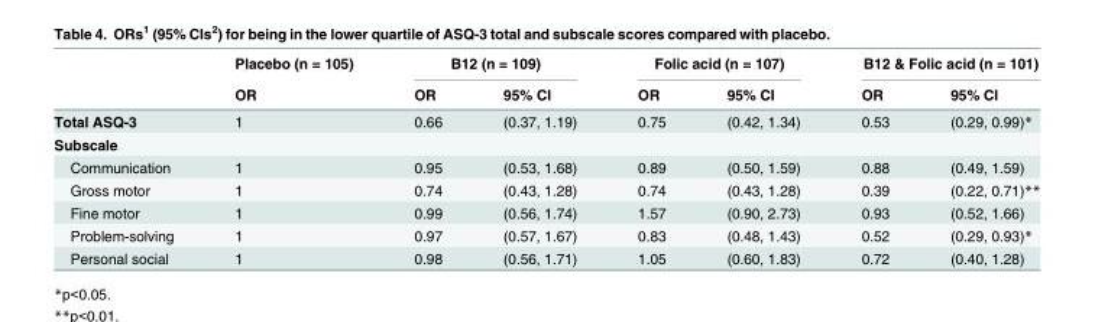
<table><thead><tr><td rowspan="2"></td><td rowspan="2">Placebo (n = 105) OR</td><td colspan="2">B12 (n = 109)</td><td colspan="2">Folic acid (n = 107)</td><td colspan="2">B12 &amp; Folic acid (n = 101)</td></tr><tr><td>OR</td><td>95% CI</td><td>OR</td><td>95% CI</td><td>OR</td><td>95% CI</td></tr></thead><tbody><tr><td>Total ASQ-3</td><td>1</td><td>0.66</td><td>(0.37, 1.19)</td><td>0.75</td><td>(0.42, 1.34)</td><td>0.53</td><td>(0.29, 0.99)*</td></tr><tr><td colspan="8">Subscale</td></tr><tr><td>Communication</td><td>1</td><td>0.95</td><td>(0.53, 1.68)</td><td>0.89</td><td>(0.50, 1.59)</td><td>0.88</td><td>(0.49, 1.59)</td></tr><tr><td>Gross motor</td><td>1</td><td>0.74</td><td>(0.43, 1.28)</td><td>0.74</td><td>(0.43, 1.28)</td><td>0.39</td><td>(0.22, 0.71)**</td></tr><tr><td>Fine motor</td><td>1</td><td>0.99</td><td>(0.56, 1.74)</td><td>1.57</td><td>(0.90, 2.73)</td><td>0.93</td><td>(0.52, 1.66)</td></tr><tr><td>Problem-solving</td><td>1</td><td>0.97</td><td>(0.57, 1.67)</td><td>0.83</td><td>(0.48, 1.43)</td><td>0.52</td><td>(0.29, 0.93)*</td></tr><tr><td>Personal social</td><td>1</td><td>0.98</td><td>(0.56, 1.71)</td><td>1.05</td><td>(0.60, 1.83)</td><td>0.72</td><td>(0.40, 1.28)</td></tr></tbody></table>